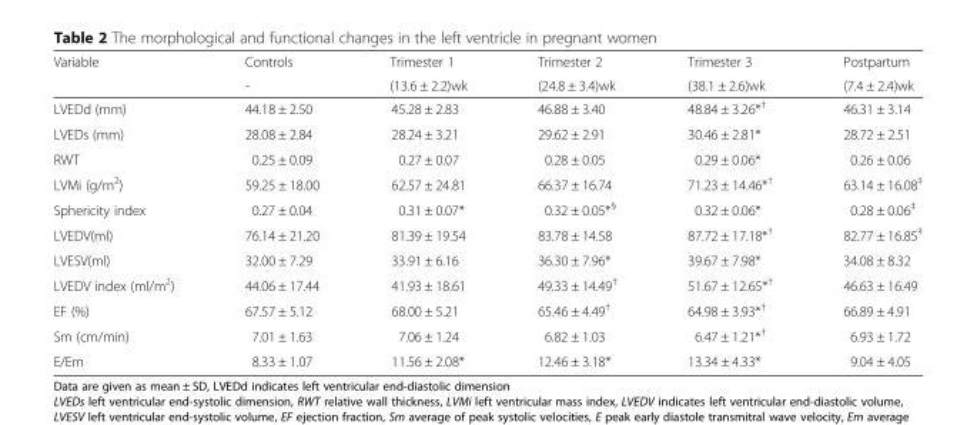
<table><thead><tr><td rowspan="2">Variable</td><td rowspan="2">Controls -</td><td rowspan="2">Trimester 1 (13.6 ± 2.2)wk</td><td rowspan="2">Trimester 2 (24.8 ± 3.4)wk</td><td rowspan="2">Trimester 3 (38.1 ± 2.6)wk</td><td rowspan="2">Postpartum (7.4 ± 2.4)wk</td></tr><tr></tr></thead><tbody><tr><td>LVEDd (mm)</td><td>44.18 ± 2.50</td><td>45.28 ± 2.83</td><td>46.88 ± 3.40</td><td>48.84 ± 3.26*<sup>†</sup></td><td>46.31 ± 3.14</td></tr><tr><td>LVEDs (mm)</td><td>28.08 ± 2.84</td><td>28.24 ± 3.21</td><td>29.62 ± 2.91</td><td>30.46 ± 2.81*</td><td>28.72 ± 2.51</td></tr><tr><td>RWT</td><td>0.25 ± 0.09</td><td>0.27 ± 0.07</td><td>0.28 ± 0.05</td><td>0.29 ± 0.06*</td><td>0.26 ± 0.06</td></tr><tr><td>LVMi (g/m<sup>2</sup>)</td><td>59.25 ± 18.00</td><td>62.57 ± 24.81</td><td>66.37 ± 16.74</td><td>71.23 ± 14.46*<sup>†</sup></td><td>63.14 ± 16.08<sup>‡</sup></td></tr><tr><td>Sphericity index</td><td>0.27 ± 0.04</td><td>0.31 ± 0.07*</td><td>0.32 ± 0.05*<sup>§</sup></td><td>0.32 ± 0.06*</td><td>0.28 ± 0.06<sup>‡</sup></td></tr><tr><td>LVEDV(ml)</td><td>76.14 ± 21.20</td><td>81.39 ± 19.54</td><td>83.78 ± 14.58</td><td>87.72 ± 17.18*<sup>†</sup></td><td>82.77 ± 16.85<sup>‡</sup></td></tr><tr><td>LVESV(ml)</td><td>32.00 ± 7.29</td><td>33.91 ± 6.16</td><td>36.30 ± 7.96*</td><td>39.67 ± 7.98*</td><td>34.08 ± 8.32</td></tr><tr><td>LVEDV index (ml/m<sup>2</sup>)</td><td>44.06 ± 17.44</td><td>41.93 ± 18.61</td><td>49.33 ± 14.49<sup>†</sup></td><td>51.67 ± 12.65*<sup>†</sup></td><td>46.63 ± 16.49</td></tr><tr><td>EF (%)</td><td>67.57 ± 5.12</td><td>68.00 ± 5.21</td><td>65.46 ± 4.49<sup>†</sup></td><td>64.98 ± 3.93*<sup>†</sup></td><td>66.89 ± 4.91</td></tr><tr><td>Sm (cm/min)</td><td>7.01 ± 1.63</td><td>7.06 ± 1.24</td><td>6.82 ± 1.03</td><td>6.47 ± 1.21*<sup>†</sup></td><td>6.93 ± 1.72</td></tr><tr><td>E/Em</td><td>8.33 ± 1.07</td><td>11.56 ± 2.08*</td><td>12.46 ± 3.18*</td><td>13.34 ± 4.33*</td><td>9.04 ± 4.05</td></tr></tbody></table>